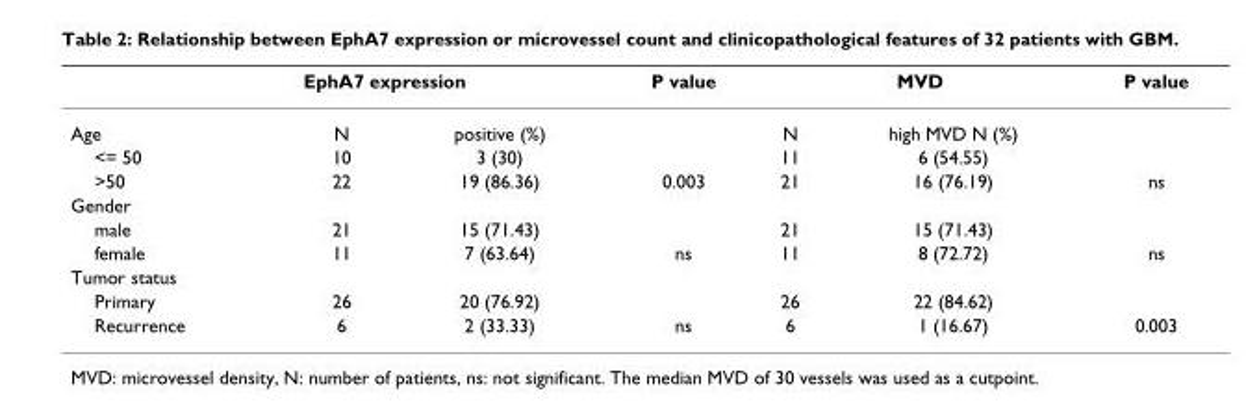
<table><thead><tr><td rowspan="2">Age</td><td colspan="2">EphA7 expression</td><td rowspan="2">P value</td><td colspan="2">MVD</td><td rowspan="2">P value</td></tr><tr><td>N</td><td>positive (%)</td><td>N</td><td>high MVD N (%)</td></tr></thead><tbody><tr><td>&lt;= 50</td><td>10</td><td>3 (30)</td><td></td><td>11</td><td>6 (54.55)</td><td></td></tr><tr><td>&gt;50</td><td>22</td><td>19 (86.36)</td><td>0.003</td><td>21</td><td>16 (76.19)</td><td>ns</td></tr><tr><td colspan="7">Gender</td></tr><tr><td>male</td><td>21</td><td>15 (71.43)</td><td></td><td>21</td><td>15 (71.43)</td><td></td></tr><tr><td>female</td><td>11</td><td>7 (63.64)</td><td>ns</td><td>11</td><td>8 (72.72)</td><td>ns</td></tr><tr><td colspan="7">Tumor status</td></tr><tr><td>Primary</td><td>26</td><td>20 (76.92)</td><td></td><td>26</td><td>22 (84.62)</td><td></td></tr><tr><td>Recurrence</td><td>6</td><td>2 (33.33)</td><td>ns</td><td>6</td><td>1 (16.67)</td><td>0.003</td></tr></tbody></table>